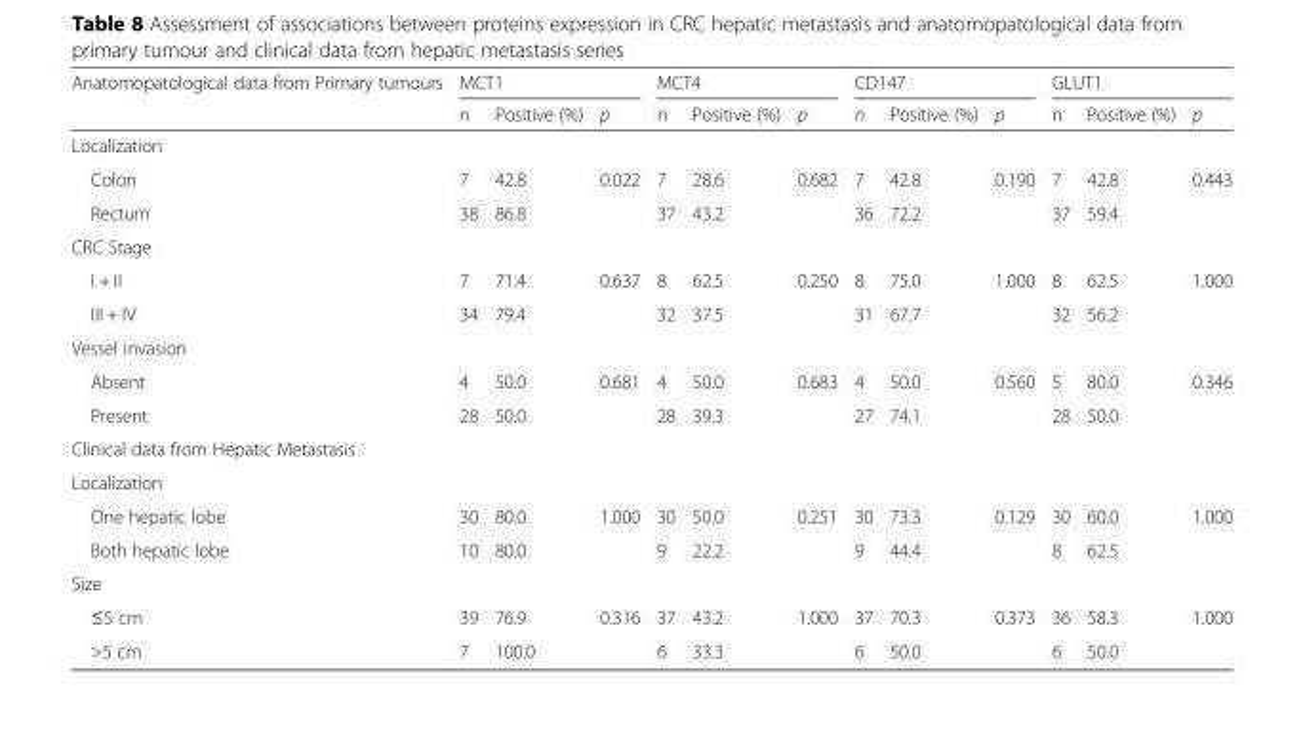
<table><thead><tr><td rowspan="2">Anatomopatological data from Primary tumours</td><td colspan="3">MCT1</td><td colspan="3">MCT4</td><td colspan="3">CD147</td><td colspan="3">GLUT1</td></tr><tr><td>n</td><td>Positive (%)</td><td>p</td><td>n</td><td>Positive (%)</td><td>p</td><td>n</td><td>Positive (%)</td><td>p</td><td>n</td><td>Positive (%)</td><td>p</td></tr></thead><tbody><tr><td colspan="13">Localization</td></tr><tr><td>Colon</td><td>7</td><td>42.8</td><td>0.022</td><td>7</td><td>28.6</td><td>0.682</td><td>7</td><td>42.8</td><td>0.190</td><td>7</td><td>42.8</td><td>0.443</td></tr><tr><td>Rectum</td><td>38</td><td>86.8</td><td></td><td>37</td><td>43.2</td><td></td><td>36</td><td>72.2</td><td></td><td>37</td><td>59.4</td><td></td></tr><tr><td colspan="13">CRC Stage</td></tr><tr><td>I + II</td><td>7</td><td>71.4</td><td>0.637</td><td>8</td><td>62.5</td><td>0.250</td><td>8</td><td>75.0</td><td>1.000</td><td>8</td><td>62.5</td><td>1.000</td></tr><tr><td>III + IV</td><td>34</td><td>79.4</td><td></td><td>32</td><td>37.5</td><td></td><td>31</td><td>67.7</td><td></td><td>32</td><td>56.2</td><td></td></tr><tr><td colspan="13">Vessel invasion</td></tr><tr><td>Absent</td><td>4</td><td>50.0</td><td>0.681</td><td>4</td><td>50.0</td><td>0.683</td><td>4</td><td>50.0</td><td>0.560</td><td>5</td><td>80.0</td><td>0.346</td></tr><tr><td>Present</td><td>28</td><td>50.0</td><td></td><td>28</td><td>39.3</td><td></td><td>27</td><td>74.1</td><td></td><td>28</td><td>50.0</td><td></td></tr><tr><td colspan="13">Clinical data from Hepatic Metastasis</td></tr><tr><td colspan="13">Localization</td></tr><tr><td>One hepatic lobe</td><td>30</td><td>80.0</td><td>1.000</td><td>30</td><td>50.0</td><td>0.251</td><td>30</td><td>73.3</td><td>0.129</td><td>30</td><td>60.0</td><td>1.000</td></tr><tr><td>Both hepatic lobe</td><td>10</td><td>80.0</td><td></td><td>9</td><td>22.2</td><td></td><td>9</td><td>44.4</td><td></td><td>8</td><td>62.5</td><td></td></tr><tr><td colspan="13">Size</td></tr><tr><td>≤5 cm</td><td>39</td><td>76.9</td><td>0.316</td><td>37</td><td>43.2</td><td>1.000</td><td>37</td><td>70.3</td><td>0.373</td><td>36</td><td>58.3</td><td>1.000</td></tr><tr><td>&gt;5 cm</td><td>7</td><td>100.0</td><td></td><td>6</td><td>33.3</td><td></td><td>6</td><td>50.0</td><td></td><td>6</td><td>50.0</td><td></td></tr></tbody></table>